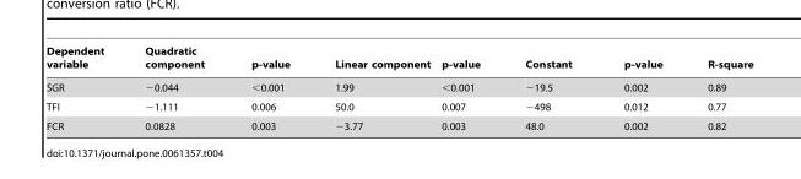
<table><thead><tr><td>Dependent variable</td><td>Quadratic component</td><td>p-value</td><td>Linear component</td><td>p-value</td><td>Constant</td><td>p-value</td><td>R-square</td></tr></thead><tbody><tr><td>SGR</td><td>−0.044</td><td>&lt;0.001</td><td>1.99</td><td>&lt;0.001</td><td>−19.5</td><td>0.002</td><td>0.89</td></tr><tr><td>TFI</td><td>−1.111</td><td>0.006</td><td>50.0</td><td>0.007</td><td>−498</td><td>0.012</td><td>0.77</td></tr><tr><td>FCR</td><td>0.0828</td><td>0.003</td><td>−3.77</td><td>0.003</td><td>48.0</td><td>0.002</td><td>0.82</td></tr></tbody></table>